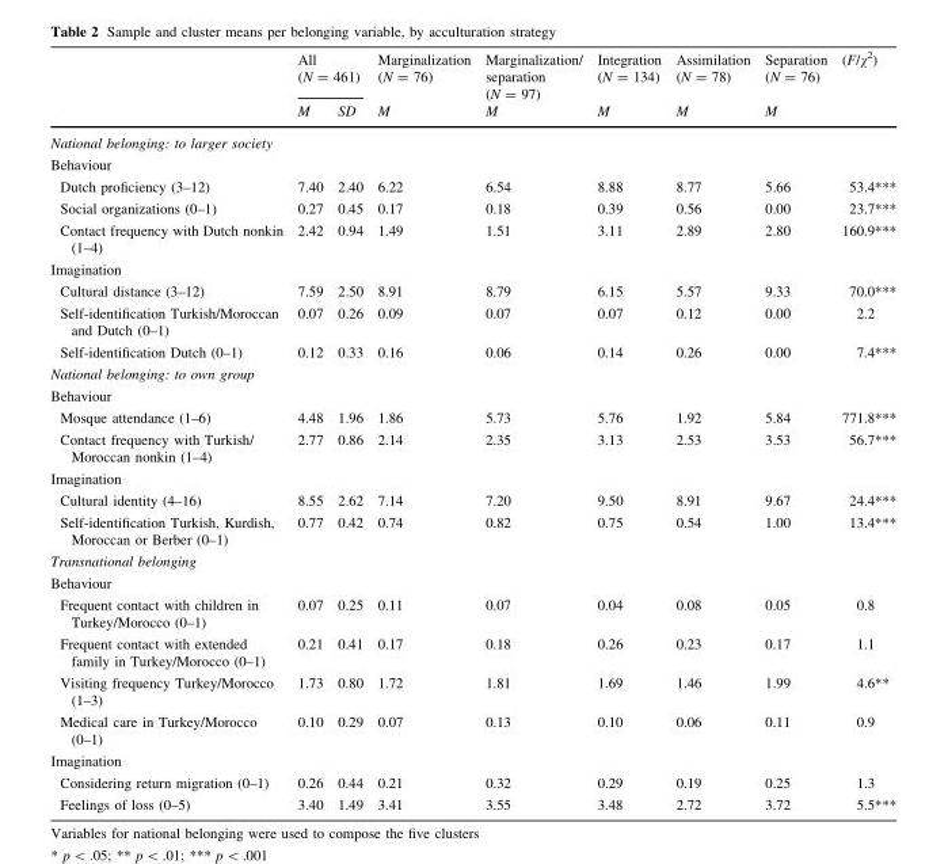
<table><thead><tr><td rowspan="2"></td><td colspan="2">All (N = 461)</td><td rowspan="2">Marginalization (N = 76) M</td><td rowspan="2">Marginalization/ separation (N = 97) M</td><td rowspan="2">Integration (N = 134) M</td><td rowspan="2">Assimilation (N = 78) M</td><td rowspan="2">Separation (N = 76) M</td><td rowspan="2">(F/χ<sup>2</sup>)</td></tr><tr><td>M</td><td>SD</td></tr></thead><tbody><tr><td colspan="9">National belonging: to larger society</td></tr><tr><td colspan="9">Behaviour</td></tr><tr><td>Dutch proficiency (3–12)</td><td>7.40</td><td>2.40</td><td>6.22</td><td>6.54</td><td>8.88</td><td>8.77</td><td>5.66</td><td>53.4***</td></tr><tr><td>Social organizations (0–1)</td><td>0.27</td><td>0.45</td><td>0.17</td><td>0.18</td><td>0.39</td><td>0.56</td><td>0.00</td><td>23.7***</td></tr><tr><td>Contact frequency with Dutch nonkin (1–4)</td><td>2.42</td><td>0.94</td><td>1.49</td><td>1.51</td><td>3.11</td><td>2.89</td><td>2.80</td><td>160.9***</td></tr><tr><td colspan="9">Imagination</td></tr><tr><td>Cultural distance (3–12)</td><td>7.59</td><td>2.50</td><td>8.91</td><td>8.79</td><td>6.15</td><td>5.57</td><td>9.33</td><td>70.0***</td></tr><tr><td>Self-identification Turkish/Moroccan and Dutch (0–1)</td><td>0.07</td><td>0.26</td><td>0.09</td><td>0.07</td><td>0.07</td><td>0.12</td><td>0.00</td><td>2.2</td></tr><tr><td>Self-identification Dutch (0–1)</td><td>0.12</td><td>0.33</td><td>0.16</td><td>0.06</td><td>0.14</td><td>0.26</td><td>0.00</td><td>7.4***</td></tr><tr><td colspan="9">National belonging: to own group</td></tr><tr><td colspan="9">Behaviour</td></tr><tr><td>Mosque attendance (1–6)</td><td>4.48</td><td>1.96</td><td>1.86</td><td>5.73</td><td>5.76</td><td>1.92</td><td>5.84</td><td>771.8***</td></tr><tr><td>Contact frequency with Turkish/ Moroccan nonkin (1–4)</td><td>2.77</td><td>0.86</td><td>2.14</td><td>2.35</td><td>3.13</td><td>2.53</td><td>3.53</td><td>56.7***</td></tr><tr><td colspan="9">Imagination</td></tr><tr><td>Cultural identity (4–16)</td><td>8.55</td><td>2.62</td><td>7.14</td><td>7.20</td><td>9.50</td><td>8.91</td><td>9.67</td><td>24.4***</td></tr><tr><td>Self-identification Turkish, Kurdish, Moroccan or Berber (0–1)</td><td>0.77</td><td>0.42</td><td>0.74</td><td>0.82</td><td>0.75</td><td>0.54</td><td>1.00</td><td>13.4***</td></tr><tr><td colspan="9">Transnational belonging</td></tr><tr><td colspan="9">Behaviour</td></tr><tr><td>Frequent contact with children in Turkey/Morocco (0–1)</td><td>0.07</td><td>0.25</td><td>0.11</td><td>0.07</td><td>0.04</td><td>0.08</td><td>0.05</td><td>0.8</td></tr><tr><td>Frequent contact with extended family in Turkey/Morocco (0–1)</td><td>0.21</td><td>0.41</td><td>0.17</td><td>0.18</td><td>0.26</td><td>0.23</td><td>0.17</td><td>1.1</td></tr><tr><td>Visiting frequency Turkey/Morocco (1–3)</td><td>1.73</td><td>0.80</td><td>1.72</td><td>1.81</td><td>1.69</td><td>1.46</td><td>1.99</td><td>4.6**</td></tr><tr><td>Medical care in Turkey/Morocco (0–1)</td><td>0.10</td><td>0.29</td><td>0.07</td><td>0.13</td><td>0.10</td><td>0.06</td><td>0.11</td><td>0.9</td></tr><tr><td colspan="9">Imagination</td></tr><tr><td>Considering return migration (0–1)</td><td>0.26</td><td>0.44</td><td>0.21</td><td>0.32</td><td>0.29</td><td>0.19</td><td>0.25</td><td>1.3</td></tr><tr><td>Feelings of loss (0–5)</td><td>3.40</td><td>1.49</td><td>3.41</td><td>3.55</td><td>3.48</td><td>2.72</td><td>3.72</td><td>5.5***</td></tr></tbody></table>